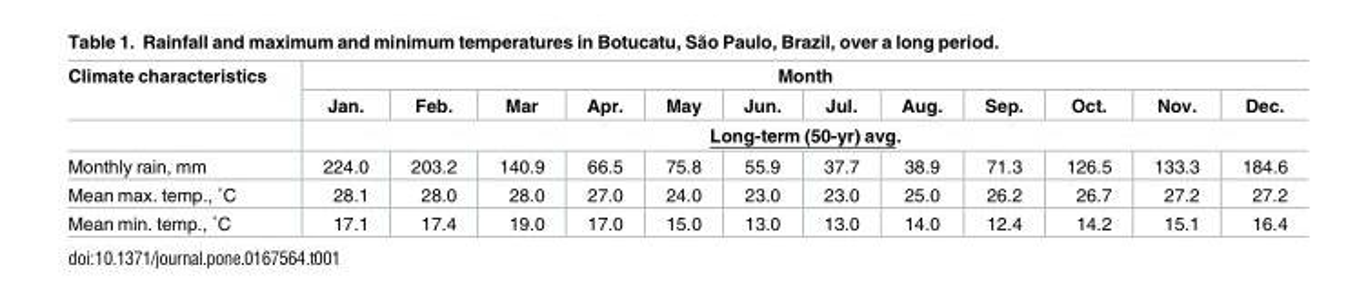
<table><thead><tr><td rowspan="3">Climate characteristics</td><td colspan="12">Month</td></tr><tr><td>Jan.</td><td>Feb.</td><td>Mar</td><td>Apr.</td><td>May</td><td>Jun.</td><td>Jul.</td><td>Aug.</td><td>Sep.</td><td>Oct.</td><td>Nov.</td><td>Dec.</td></tr><tr><td colspan="12">Long-term (50-yr) avg.</td></tr></thead><tbody><tr><td>Monthly rain, mm</td><td>224.0</td><td>203.2</td><td>140.9</td><td>66.5</td><td>75.8</td><td>55.9</td><td>37.7</td><td>38.9</td><td>71.3</td><td>126.5</td><td>133.3</td><td>184.6</td></tr><tr><td>Mean max. temp., ˚C</td><td>28.1</td><td>28.0</td><td>28.0</td><td>27.0</td><td>24.0</td><td>23.0</td><td>23.0</td><td>25.0</td><td>26.2</td><td>26.7</td><td>27.2</td><td>27.2</td></tr><tr><td>Mean min. temp., ˚C</td><td>17.1</td><td>17.4</td><td>19.0</td><td>17.0</td><td>15.0</td><td>13.0</td><td>13.0</td><td>14.0</td><td>12.4</td><td>14.2</td><td>15.1</td><td>16.4</td></tr></tbody></table>